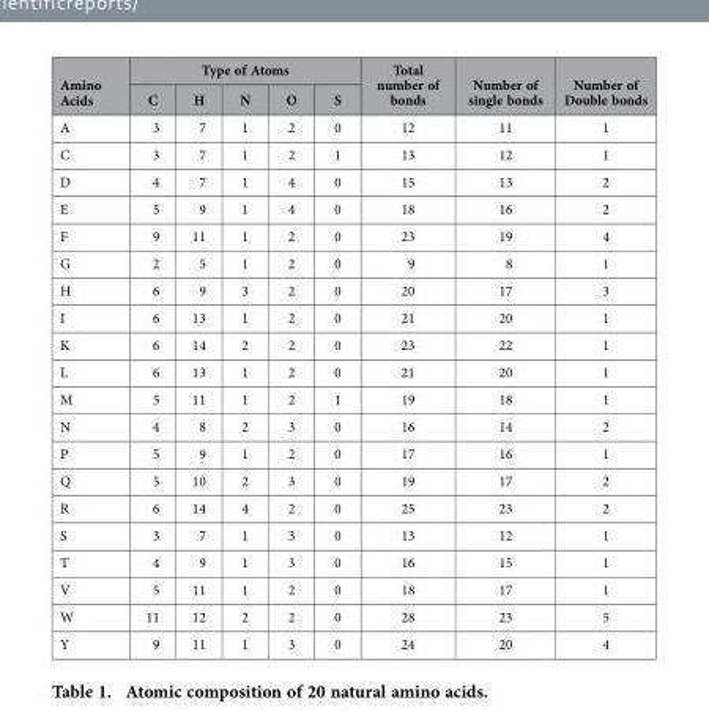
<table><thead><tr><td rowspan="2">Amino Acids</td><td colspan="5">Type of Atoms</td><td rowspan="2">Total number of bonds</td><td rowspan="2">Number of single bonds</td><td rowspan="2">Number of Double bonds</td></tr><tr><td>C</td><td>H</td><td>N</td><td>O</td><td>S</td></tr></thead><tbody><tr><td>A</td><td>3</td><td>7</td><td>1</td><td>2</td><td>0</td><td>12</td><td>11</td><td>1</td></tr><tr><td>C</td><td>3</td><td>7</td><td>1</td><td>2</td><td>1</td><td>13</td><td>12</td><td>1</td></tr><tr><td>D</td><td>4</td><td>7</td><td>1</td><td>4</td><td>0</td><td>15</td><td>13</td><td>2</td></tr><tr><td>E</td><td>5</td><td>9</td><td>1</td><td>4</td><td>0</td><td>18</td><td>16</td><td>2</td></tr><tr><td>F</td><td>9</td><td>11</td><td>1</td><td>2</td><td>0</td><td>23</td><td>19</td><td>4</td></tr><tr><td>G</td><td>2</td><td>5</td><td>1</td><td>2</td><td>0</td><td>9</td><td>8</td><td>1</td></tr><tr><td>H</td><td>6</td><td>9</td><td>3</td><td>2</td><td>0</td><td>20</td><td>17</td><td>3</td></tr><tr><td>I</td><td>6</td><td>13</td><td>1</td><td>2</td><td>0</td><td>21</td><td>20</td><td>1</td></tr><tr><td>K</td><td>6</td><td>14</td><td>2</td><td>2</td><td>0</td><td>23</td><td>22</td><td>1</td></tr><tr><td>L</td><td>6</td><td>13</td><td>1</td><td>2</td><td>0</td><td>21</td><td>20</td><td>1</td></tr><tr><td>M</td><td>5</td><td>11</td><td>1</td><td>2</td><td>1</td><td>19</td><td>18</td><td>1</td></tr><tr><td>N</td><td>4</td><td>8</td><td>2</td><td>3</td><td>0</td><td>16</td><td>14</td><td>2</td></tr><tr><td>P</td><td>5</td><td>9</td><td>1</td><td>2</td><td>0</td><td>17</td><td>16</td><td>1</td></tr><tr><td>Q</td><td>5</td><td>10</td><td>2</td><td>3</td><td>0</td><td>19</td><td>17</td><td>2</td></tr><tr><td>R</td><td>6</td><td>14</td><td>4</td><td>2</td><td>0</td><td>25</td><td>23</td><td>2</td></tr><tr><td>S</td><td>3</td><td>7</td><td>1</td><td>3</td><td>0</td><td>13</td><td>12</td><td>1</td></tr><tr><td>T</td><td>4</td><td>9</td><td>1</td><td>3</td><td>0</td><td>16</td><td>15</td><td>1</td></tr><tr><td>V</td><td>5</td><td>11</td><td>1</td><td>2</td><td>0</td><td>18</td><td>17</td><td>1</td></tr><tr><td>W</td><td>11</td><td>12</td><td>2</td><td>2</td><td>0</td><td>28</td><td>23</td><td>5</td></tr><tr><td>Y</td><td>9</td><td>11</td><td>1</td><td>3</td><td>0</td><td>24</td><td>20</td><td>4</td></tr></tbody></table>